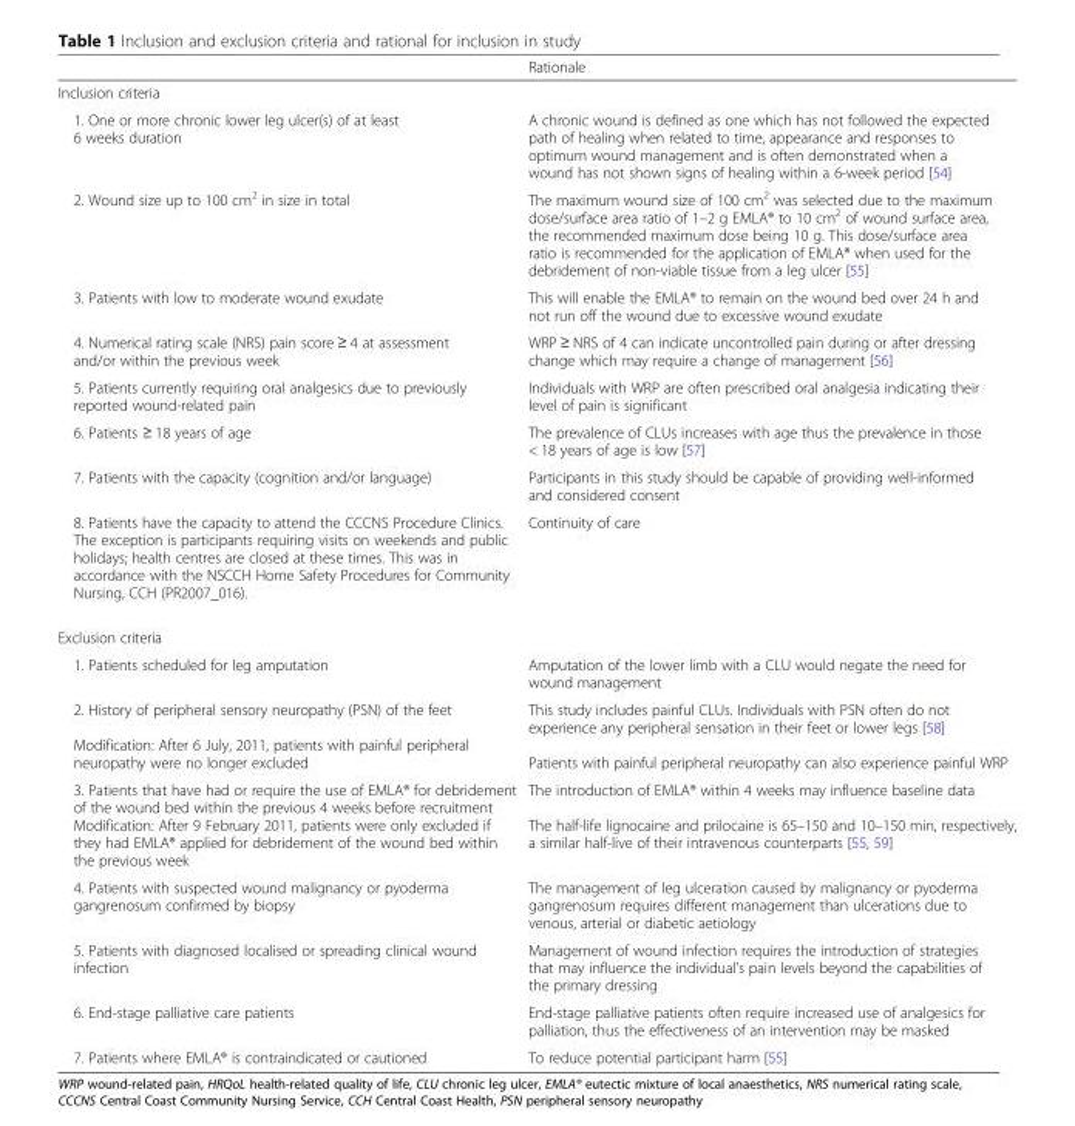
<table><thead><tr><td></td><td>Rationale</td></tr></thead><tbody><tr><td colspan="2">Inclusion criteria</td></tr><tr><td>1. One or more chronic lower leg ulcer(s) of at least 6 weeks duration</td><td>A chronic wound is defined as one which has not followed the expected path of healing when related to time, appearance and responses to optimum wound management and is often demonstrated when a wound has not shown signs of healing within a 6-week period [54]</td></tr><tr><td>2. Wound size up to 100 cm<sup>2</sup> in size in total</td><td>The maximum wound size of 100 cm<sup>2</sup> was selected due to the maximum dose/surface area ratio of 1–2 g EMLA® to 10 cm<sup>2</sup> of wound surface area, the recommended maximum dose being 10 g. This dose/surface area ratio is recommended for the application of EMLA® when used for the debridement of non-viable tissue from a leg ulcer [55]</td></tr><tr><td>3. Patients with low to moderate wound exudate</td><td>This will enable the EMLA® to remain on the wound bed over 24 h and not run off the wound due to excessive wound exudate</td></tr><tr><td>4. Numerical rating scale (NRS) pain score ≥ 4 at assessment and/or within the previous week</td><td>WRP ≥ NRS of 4 can indicate uncontrolled pain during or after dressing change which may require a change of management [56]</td></tr><tr><td>5. Patients currently requiring oral analgesics due to previously reported wound-related pain</td><td>Individuals with WRP are often prescribed oral analgesia indicating their level of pain is significant</td></tr><tr><td>6. Patients ≥ 18 years of age</td><td>The prevalence of CLUs increases with age thus the prevalence in those &lt; 18 years of age is low [57]</td></tr><tr><td>7. Patients with the capacity (cognition and/or language)</td><td>Participants in this study should be capable of providing well-informed and considered consent</td></tr><tr><td>8. Patients have the capacity to attend the CCCNS Procedure Clinics. The exception is participants requiring visits on weekends and public holidays; health centres are closed at these times. This was in accordance with the NSCCH Home Safety Procedures for Community Nursing, CCH (PR2007_016).</td><td>Continuity of care</td></tr><tr><td colspan="2">Exclusion criteria</td></tr><tr><td>1. Patients scheduled for leg amputation</td><td>Amputation of the lower limb with a CLU would negate the need for wound management</td></tr><tr><td>2. History of peripheral sensory neuropathy (PSN) of the feet Modification: After 6 July, 2011, patients with painful peripheral neuropathy were no longer excluded</td><td>This study includes painful CLUs. Individuals with PSN often do not experience any peripheral sensation in their feet or lower legs [58] Patients with painful peripheral neuropathy can also experience painful WRP</td></tr><tr><td>3. Patients that have had or require the use of EMLA® for debridement of the wound bed within the previous 4 weeks before recruitment Modification: After 9 February 2011, patients were only excluded if they had EMLA® applied for debridement of the wound bed within the previous week</td><td>The introduction of EMLA® within 4 weeks may influence baseline data The half-life lignocaine and prilocaine is 65–150 and 10–150 min, respectively, a similar half-live of their intravenous counterparts [55, 59]</td></tr><tr><td>4. Patients with suspected wound malignancy or pyoderma gangrenosum confirmed by biopsy</td><td>The management of leg ulceration caused by malignancy or pyoderma gangrenosum requires different management than ulcerations due to venous, arterial or diabetic aetiology</td></tr><tr><td>5. Patients with diagnosed localised or spreading clinical wound infection</td><td>Management of wound infection requires the introduction of strategies that may influence the individual’s pain levels beyond the capabilities of the primary dressing</td></tr><tr><td>6. End-stage palliative care patients</td><td>End-stage palliative patients often require increased use of analgesics for palliation, thus the effectiveness of an intervention may be masked</td></tr><tr><td>7. Patients where EMLA® is contraindicated or cautioned</td><td>To reduce potential participant harm [55]</td></tr></tbody></table>